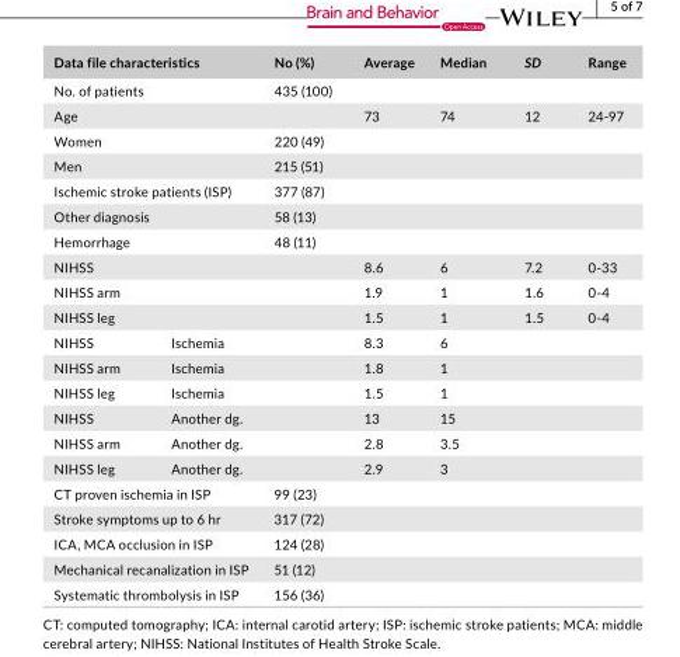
<table><thead><tr><td colspan="2">Data file characteristics</td><td>No (%)</td><td>Average</td><td>Median</td><td>SD</td><td>Range</td></tr></thead><tbody><tr><td colspan="2">No. of patients</td><td>435 (100)</td><td></td><td></td><td></td><td></td></tr><tr><td colspan="2">Age</td><td></td><td>73</td><td>74</td><td>12</td><td>24- 97</td></tr><tr><td colspan="2">Women</td><td>220 (49)</td><td></td><td></td><td></td><td></td></tr><tr><td colspan="2">Men</td><td>215 (51)</td><td></td><td></td><td></td><td></td></tr><tr><td colspan="2">Ischemic stroke patients (ISP)</td><td>377 (87)</td><td></td><td></td><td></td><td></td></tr><tr><td colspan="2">Other diagnosis</td><td>58 (13)</td><td></td><td></td><td></td><td></td></tr><tr><td colspan="2">Hemorrhage</td><td>48 (11)</td><td></td><td></td><td></td><td></td></tr><tr><td>NIHSS</td><td></td><td></td><td>8.6</td><td>6</td><td>7.2</td><td>0- 33</td></tr><tr><td>NIHSS arm</td><td></td><td></td><td>1.9</td><td>1</td><td>1.6</td><td>0- 4</td></tr><tr><td>NIHSS leg</td><td></td><td></td><td>1.5</td><td>1</td><td>1.5</td><td>0- 4</td></tr><tr><td>NIHSS</td><td>Ischemia</td><td></td><td>8.3</td><td>6</td><td></td><td></td></tr><tr><td>NIHSS arm</td><td>Ischemia</td><td></td><td>1.8</td><td>1</td><td></td><td></td></tr><tr><td>NIHSS leg</td><td>Ischemia</td><td></td><td>1.5</td><td>1</td><td></td><td></td></tr><tr><td>NIHSS</td><td>Another dg.</td><td></td><td>13</td><td>15</td><td></td><td></td></tr><tr><td>NIHSS arm</td><td>Another dg.</td><td></td><td>2.8</td><td>3.5</td><td></td><td></td></tr><tr><td>NIHSS leg</td><td>Another dg.</td><td></td><td>2.9</td><td>3</td><td></td><td></td></tr><tr><td colspan="2">CT proven ischemia in ISP</td><td>99 (23)</td><td></td><td></td><td></td><td></td></tr><tr><td colspan="2">Stroke symptoms up to 6 hr</td><td>317 (72)</td><td></td><td></td><td></td><td></td></tr><tr><td colspan="2">ICA, MCA occlusion in ISP</td><td>124 (28)</td><td></td><td></td><td></td><td></td></tr><tr><td colspan="2">Mechanical recanalization in ISP</td><td>51 (12)</td><td></td><td></td><td></td><td></td></tr><tr><td colspan="2">Systematic thrombolysis in ISP</td><td>156 (36)</td><td></td><td></td><td></td><td></td></tr></tbody></table>